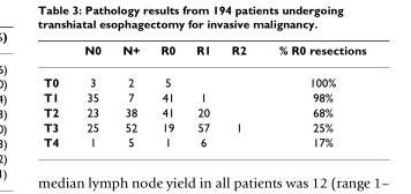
<table><thead><tr><td></td><td>N0</td><td>N+</td><td>R0</td><td>R1</td><td>R2</td><td>% R0 resections</td></tr></thead><tbody><tr><td>T0</td><td>3</td><td>2</td><td>5</td><td></td><td></td><td>100%</td></tr><tr><td>T1</td><td>35</td><td>7</td><td>41</td><td>1</td><td></td><td>98%</td></tr><tr><td>T2</td><td>23</td><td>38</td><td>41</td><td>20</td><td></td><td>68%</td></tr><tr><td>T3</td><td>25</td><td>52</td><td>19</td><td>57</td><td>1</td><td>25%</td></tr><tr><td>T4</td><td>1</td><td>5</td><td>1</td><td>6</td><td></td><td>17%</td></tr></tbody></table>